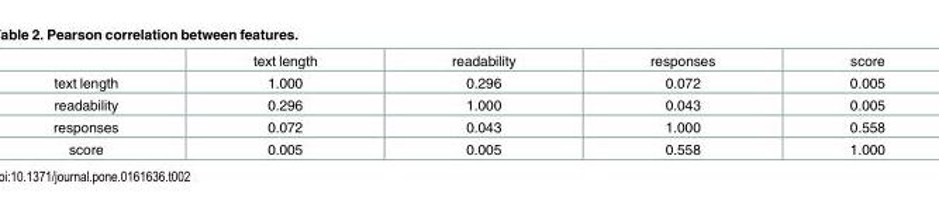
<table><thead><tr><td></td><td>text length</td><td>readability</td><td>responses</td><td>score</td></tr></thead><tbody><tr><td>text length</td><td>1.000</td><td>0.296</td><td>0.072</td><td>0.005</td></tr><tr><td>readability</td><td>0.296</td><td>1.000</td><td>0.043</td><td>0.005</td></tr><tr><td>responses</td><td>0.072</td><td>0.043</td><td>1.000</td><td>0.558</td></tr><tr><td>score</td><td>0.005</td><td>0.005</td><td>0.558</td><td>1.000</td></tr></tbody></table>